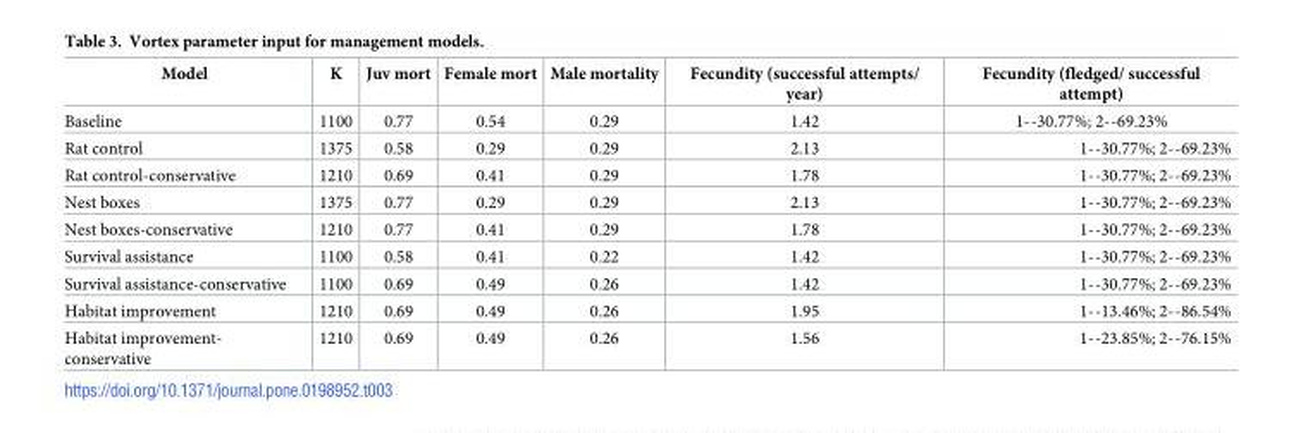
<table><thead><tr><td>Model</td><td>K</td><td>Juv mort</td><td>Female mort</td><td>Male mortality</td><td>Fecundity (successful attempts/ year)</td><td>Fecundity (fledged/ successful attempt)</td></tr></thead><tbody><tr><td>Baseline</td><td>1100</td><td>0.77</td><td>0.54</td><td>0.29</td><td>1.42</td><td>1--30.77%; 2--69.23%</td></tr><tr><td>Rat control</td><td>1375</td><td>0.58</td><td>0.29</td><td>0.29</td><td>2.13</td><td>1--30.77%; 2--69.23%</td></tr><tr><td>Rat control-conservative</td><td>1210</td><td>0.69</td><td>0.41</td><td>0.29</td><td>1.78</td><td>1--30.77%; 2--69.23%</td></tr><tr><td>Nest boxes</td><td>1375</td><td>0.77</td><td>0.29</td><td>0.29</td><td>2.13</td><td>1--30.77%; 2--69.23%</td></tr><tr><td>Nest boxes-conservative</td><td>1210</td><td>0.77</td><td>0.41</td><td>0.29</td><td>1.78</td><td>1--30.77%; 2--69.23%</td></tr><tr><td>Survival assistance</td><td>1100</td><td>0.58</td><td>0.41</td><td>0.22</td><td>1.42</td><td>1--30.77%; 2--69.23%</td></tr><tr><td>Survival assistance-conservative</td><td>1100</td><td>0.69</td><td>0.49</td><td>0.26</td><td>1.42</td><td>1--30.77%; 2--69.23%</td></tr><tr><td>Habitat improvement</td><td>1210</td><td>0.69</td><td>0.49</td><td>0.26</td><td>1.95</td><td>1--13.46%; 2--86.54%</td></tr><tr><td>Habitat improvement- conservative</td><td>1210</td><td>0.69</td><td>0.49</td><td>0.26</td><td>1.56</td><td>1--23.85%; 2--76.15%</td></tr></tbody></table>